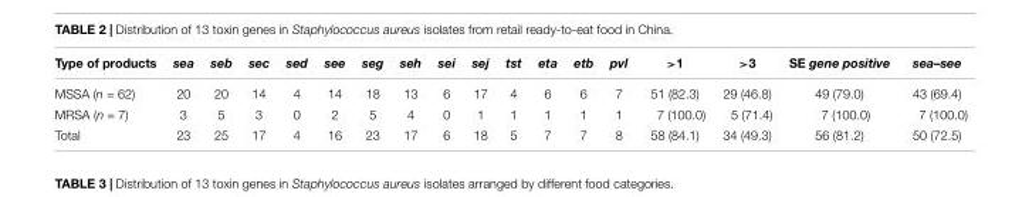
<table><thead><tr><td>Type of products</td><td>sea</td><td>seb</td><td>sec</td><td>sed</td><td>see</td><td>seg</td><td>seh</td><td>sei</td><td>sej</td><td>tst</td><td>eta</td><td>etb</td><td>pvl</td><td>&gt;1</td><td>&gt;3</td><td>SE gene positive</td><td>sea–see</td></tr></thead><tbody><tr><td>MSSA (n = 62)</td><td>20</td><td>20</td><td>14</td><td>4</td><td>14</td><td>18</td><td>13</td><td>6</td><td>17</td><td>4</td><td>6</td><td>6</td><td>7</td><td>51 (82.3)</td><td>29 (46.8)</td><td>49 (79.0)</td><td>43 (69.4)</td></tr><tr><td>MRSA (n = 7)</td><td>3</td><td>5</td><td>3</td><td>0</td><td>2</td><td>5</td><td>4</td><td>0</td><td>1</td><td>1</td><td>1</td><td>1</td><td>1</td><td>7 (100.0)</td><td>5 (71.4)</td><td>7 (100.0)</td><td>7 (100.0)</td></tr><tr><td>Total</td><td>23</td><td>25</td><td>17</td><td>4</td><td>16</td><td>23</td><td>17</td><td>6</td><td>18</td><td>5</td><td>7</td><td>7</td><td>8</td><td>58 (84.1)</td><td>34 (49.3)</td><td>56 (81.2)</td><td>50 (72.5)</td></tr></tbody></table>